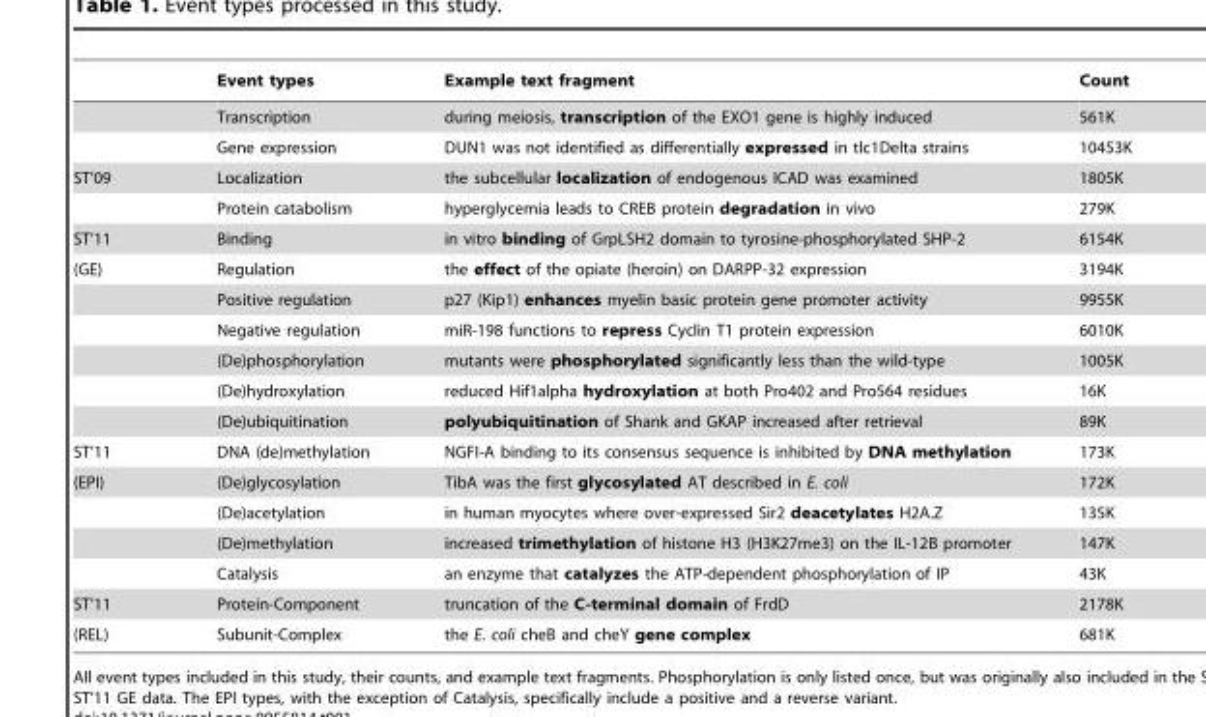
<table><thead><tr><td></td><td>Event types</td><td>Example text fragment</td><td>Count</td></tr></thead><tbody><tr><td></td><td>Transcription</td><td>during meiosis, transcription of the EXO1 gene is highly induced</td><td>561K</td></tr><tr><td></td><td>Gene expression</td><td>DUN1 was not identified as differentially expressed in tlc1Delta strains</td><td>10453K</td></tr><tr><td rowspan="2">ST’09</td><td>Localization</td><td>the subcellular localization of endogenous ICAD was examined</td><td>1805K</td></tr><tr><td>Protein catabolism</td><td>hyperglycemia leads to CREB protein degradation in vivo</td><td>279K</td></tr><tr><td>ST’11</td><td>Binding</td><td>in vitro binding of GrpLSH2 domain to tyrosine-phosphorylated SHP-2</td><td>6154K</td></tr><tr><td rowspan="6">(GE)</td><td>Regulation</td><td>the effect of the opiate (heroin) on DARPP-32 expression</td><td>3194K</td></tr><tr><td>Positive regulation</td><td>p27 (Kip1) enhances myelin basic protein gene promoter activity</td><td>9955K</td></tr><tr><td>Negative regulation</td><td>miR-198 functions to repress Cyclin T1 protein expression</td><td>6010K</td></tr><tr><td>(De)phosphorylation</td><td>mutants were phosphorylated significantly less than the wild-type</td><td>1005K</td></tr><tr><td>(De)hydroxylation</td><td>reduced Hif1alpha hydroxylation at both Pro402 and Pro564 residues</td><td>16K</td></tr><tr><td>(De)ubiquitination</td><td>polyubiquitination of Shank and GKAP increased after retrieval</td><td>89K</td></tr><tr><td>ST’11</td><td>DNA (de)methylation</td><td>NGFI-A binding to its consensus sequence is inhibited by DNA methylation</td><td>173K</td></tr><tr><td rowspan="4">(EPI)</td><td>(De)glycosylation</td><td>TibA was the first glycosylated AT described in E. coli</td><td>172K</td></tr><tr><td>(De)acetylation</td><td>in human myocytes where over-expressed Sir2 deacetylates H2A.Z</td><td>135K</td></tr><tr><td>(De)methylation</td><td>increased trimethylation of histone H3 (H3K27me3) on the IL-12B promoter</td><td>147K</td></tr><tr><td>Catalysis</td><td>an enzyme that catalyzes the ATP-dependent phosphorylation of IP</td><td>43K</td></tr><tr><td>ST’11</td><td>Protein-Component</td><td>truncation of the C-terminal domain of FrdD</td><td>2178K</td></tr><tr><td>(REL)</td><td>Subunit-Complex</td><td>the E. coli cheB and cheY gene complex</td><td>681K</td></tr></tbody></table>